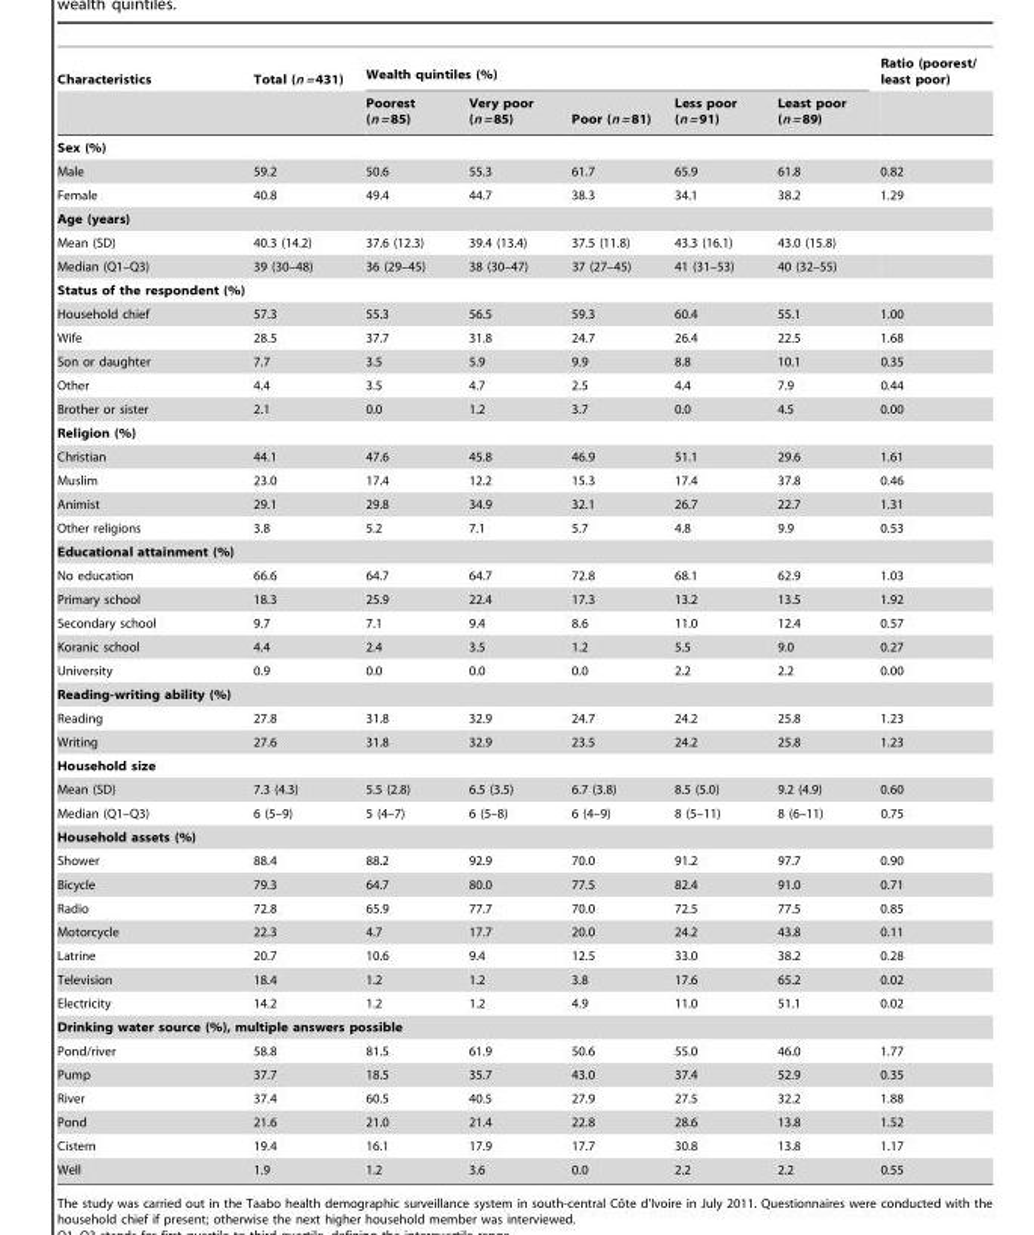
<table><thead><tr><td rowspan="2">Characteristics</td><td rowspan="2">Total (n = 431)</td><td colspan="5">Wealth quintiles (%)</td><td rowspan="2">Ratio (poorest/ least poor)</td></tr><tr><td>Poorest (n = 85)</td><td>Very poor (n = 85)</td><td>Poor (n = 81)</td><td>Less poor (n = 91)</td><td>Least poor (n = 89)</td></tr></thead><tbody><tr><td colspan="8">Sex (%)</td></tr><tr><td>Male</td><td>59.2</td><td>50.6</td><td>55.3</td><td>61.7</td><td>65.9</td><td>61.8</td><td>0.82</td></tr><tr><td>Female</td><td>40.8</td><td>49.4</td><td>44.7</td><td>38.3</td><td>34.1</td><td>38.2</td><td>1.29</td></tr><tr><td colspan="8">Age (years)</td></tr><tr><td>Mean (SD)</td><td>40.3 (14.2)</td><td>37.6 (12.3)</td><td>39.4 (13.4)</td><td>37.5 (11.8)</td><td>43.3 (16.1)</td><td>43.0 (15.8)</td><td></td></tr><tr><td>Median (Q1–Q3)</td><td>39 (30–48)</td><td>36 (29–45)</td><td>38 (30–47)</td><td>37 (27–45)</td><td>41 (31–53)</td><td>40 (32–55)</td><td></td></tr><tr><td colspan="8">Status of the respondent (%)</td></tr><tr><td>Household chief</td><td>57.3</td><td>55.3</td><td>56.5</td><td>59.3</td><td>60.4</td><td>55.1</td><td>1.00</td></tr><tr><td>Wife</td><td>28.5</td><td>37.7</td><td>31.8</td><td>24.7</td><td>26.4</td><td>22.5</td><td>1.68</td></tr><tr><td>Son or daughter</td><td>7.7</td><td>3.5</td><td>5.9</td><td>9.9</td><td>8.8</td><td>10.1</td><td>0.35</td></tr><tr><td>Other</td><td>4.4</td><td>3.5</td><td>4.7</td><td>2.5</td><td>4.4</td><td>7.9</td><td>0.44</td></tr><tr><td>Brother or sister</td><td>2.1</td><td>0.0</td><td>1.2</td><td>3.7</td><td>0.0</td><td>4.5</td><td>0.00</td></tr><tr><td colspan="8">Religion (%)</td></tr><tr><td>Christian</td><td>44.1</td><td>47.6</td><td>45.8</td><td>46.9</td><td>51.1</td><td>29.6</td><td>1.61</td></tr><tr><td>Muslim</td><td>23.0</td><td>17.4</td><td>12.2</td><td>15.3</td><td>17.4</td><td>37.8</td><td>0.46</td></tr><tr><td>Animist</td><td>29.1</td><td>29.8</td><td>34.9</td><td>32.1</td><td>26.7</td><td>22.7</td><td>1.31</td></tr><tr><td>Other religions</td><td>3.8</td><td>5.2</td><td>7.1</td><td>5.7</td><td>4.8</td><td>9.9</td><td>0.53</td></tr><tr><td colspan="8">Educational attainment (%)</td></tr><tr><td>No education</td><td>66.6</td><td>64.7</td><td>64.7</td><td>72.8</td><td>68.1</td><td>62.9</td><td>1.03</td></tr><tr><td>Primary school</td><td>18.3</td><td>25.9</td><td>22.4</td><td>17.3</td><td>13.2</td><td>13.5</td><td>1.92</td></tr><tr><td>Secondary school</td><td>9.7</td><td>7.1</td><td>9.4</td><td>8.6</td><td>11.0</td><td>12.4</td><td>0.57</td></tr><tr><td>Koranic school</td><td>4.4</td><td>2.4</td><td>3.5</td><td>1.2</td><td>5.5</td><td>9.0</td><td>0.27</td></tr><tr><td>University</td><td>0.9</td><td>0.0</td><td>0.0</td><td>0.0</td><td>2.2</td><td>2.2</td><td>0.00</td></tr><tr><td colspan="8">Reading-writing ability (%)</td></tr><tr><td>Reading</td><td>27.8</td><td>31.8</td><td>32.9</td><td>24.7</td><td>24.2</td><td>25.8</td><td>1.23</td></tr><tr><td>Writing</td><td>27.6</td><td>31.8</td><td>32.9</td><td>23.5</td><td>24.2</td><td>25.8</td><td>1.23</td></tr><tr><td colspan="8">Household size</td></tr><tr><td>Mean (SD)</td><td>7.3 (4.3)</td><td>5.5 (2.8)</td><td>6.5 (3.5)</td><td>6.7 (3.8)</td><td>8.5 (5.0)</td><td>9.2 (4.9)</td><td>0.60</td></tr><tr><td>Median (Q1–Q3)</td><td>6 (5–9)</td><td>5 (4–7)</td><td>6 (5–8)</td><td>6 (4–9)</td><td>8 (5–11)</td><td>8 (6–11)</td><td>0.75</td></tr><tr><td colspan="8">Household assets (%)</td></tr><tr><td>Shower</td><td>88.4</td><td>88.2</td><td>92.9</td><td>70.0</td><td>91.2</td><td>97.7</td><td>0.90</td></tr><tr><td>Bicycle</td><td>79.3</td><td>64.7</td><td>80.0</td><td>77.5</td><td>82.4</td><td>91.0</td><td>0.71</td></tr><tr><td>Radio</td><td>72.8</td><td>65.9</td><td>77.7</td><td>70.0</td><td>72.5</td><td>77.5</td><td>0.85</td></tr><tr><td>Motorcycle</td><td>22.3</td><td>4.7</td><td>17.7</td><td>20.0</td><td>24.2</td><td>43.8</td><td>0.11</td></tr><tr><td>Latrine</td><td>20.7</td><td>10.6</td><td>9.4</td><td>12.5</td><td>33.0</td><td>38.2</td><td>0.28</td></tr><tr><td>Television</td><td>18.4</td><td>1.2</td><td>1.2</td><td>3.8</td><td>17.6</td><td>65.2</td><td>0.02</td></tr><tr><td>Electricity</td><td>14.2</td><td>1.2</td><td>1.2</td><td>4.9</td><td>11.0</td><td>51.1</td><td>0.02</td></tr><tr><td colspan="8">Drinking water source (%), multiple answers possible</td></tr><tr><td>Pond/river</td><td>58.8</td><td>81.5</td><td>61.9</td><td>50.6</td><td>55.0</td><td>46.0</td><td>1.77</td></tr><tr><td>Pump</td><td>37.7</td><td>18.5</td><td>35.7</td><td>43.0</td><td>37.4</td><td>52.9</td><td>0.35</td></tr><tr><td>River</td><td>37.4</td><td>60.5</td><td>40.5</td><td>27.9</td><td>27.5</td><td>32.2</td><td>1.88</td></tr><tr><td>Pond</td><td>21.6</td><td>21.0</td><td>21.4</td><td>22.8</td><td>28.6</td><td>13.8</td><td>1.52</td></tr><tr><td>Cistern</td><td>19.4</td><td>16.1</td><td>17.9</td><td>17.7</td><td>30.8</td><td>13.8</td><td>1.17</td></tr><tr><td>Well</td><td>1.9</td><td>1.2</td><td>3.6</td><td>0.0</td><td>2.2</td><td>2.2</td><td>0.55</td></tr></tbody></table>